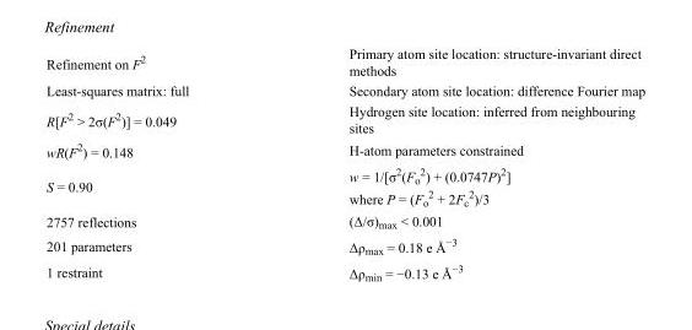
<table><tbody><tr><td>Refinement on F<sup>2</sup></td><td>Primary atom site location: structure-invariant direct methods</td></tr><tr><td>Least-squares matrix: full</td><td>Secondary atom site location: difference Fourier map</td></tr><tr><td>R[F<sup>2</sup> &gt; 2σ(F<sup>2</sup>)] = 0.049</td><td>Hydrogen site location: inferred from neighbouring sites</td></tr><tr><td>wR(F<sup>2</sup>) = 0.148</td><td>H-atom parameters constrained</td></tr><tr><td>S = 0.90</td><td>w = 1/[σ<sup>2</sup>(F<sub>o</sub> <sup>2</sup>) + (0.0747P)<sup>2</sup>] where P = (F<sub>o</sub> <sup>2</sup> + 2F<sub>c</sub> <sup>2</sup>)/3</td></tr><tr><td>2757 reflections</td><td>(Δ/σ)<sub>max</sub> &lt; 0.001</td></tr><tr><td>201 parameters</td><td>Δρ<sub>max</sub> = 0.18 e Å<sup>−3</sup></td></tr><tr><td>1 restraint</td><td>Δρ<sub>min</sub> = −0.13 e Å<sup>−3</sup></td></tr></tbody></table>